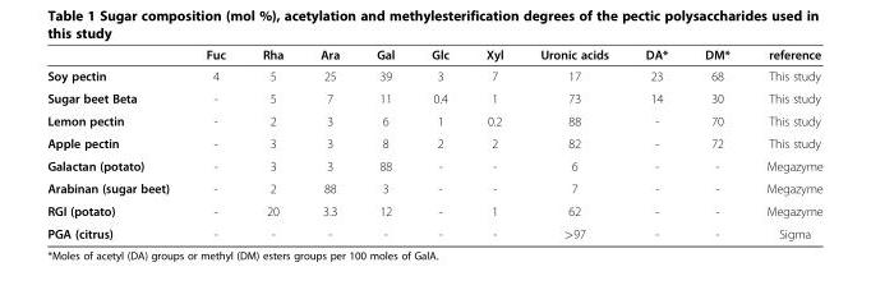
<table><thead><tr><td></td><td>Fuc</td><td>Rha</td><td>Ara</td><td>Gal</td><td>Glc</td><td>Xyl</td><td>Uronic acids</td><td>DA*</td><td>DM*</td><td>reference</td></tr></thead><tbody><tr><td>Soy pectin</td><td>4</td><td>5</td><td>25</td><td>39</td><td>3</td><td>7</td><td>17</td><td>23</td><td>68</td><td>This study</td></tr><tr><td>Sugar beet Beta</td><td>-</td><td>5</td><td>7</td><td>11</td><td>0.4</td><td>1</td><td>73</td><td>14</td><td>30</td><td>This study</td></tr><tr><td>Lemon pectin</td><td>-</td><td>2</td><td>3</td><td>6</td><td>1</td><td>0.2</td><td>88</td><td>-</td><td>70</td><td>This study</td></tr><tr><td>Apple pectin</td><td>-</td><td>3</td><td>3</td><td>8</td><td>2</td><td>2</td><td>82</td><td>-</td><td>72</td><td>This study</td></tr><tr><td>Galactan (potato)</td><td>-</td><td>3</td><td>3</td><td>88</td><td>-</td><td>-</td><td>6</td><td>-</td><td>-</td><td>Megazyme</td></tr><tr><td>Arabinan (sugar beet)</td><td>-</td><td>2</td><td>88</td><td>3</td><td>-</td><td>-</td><td>7</td><td>-</td><td>-</td><td>Megazyme</td></tr><tr><td>RGI (potato)</td><td>-</td><td>20</td><td>3.3</td><td>12</td><td>-</td><td>1</td><td>62</td><td>-</td><td>-</td><td>Megazyme</td></tr><tr><td>PGA (citrus)</td><td>-</td><td>-</td><td>-</td><td>-</td><td>-</td><td>-</td><td>&gt;97</td><td>-</td><td>-</td><td>Sigma</td></tr></tbody></table>